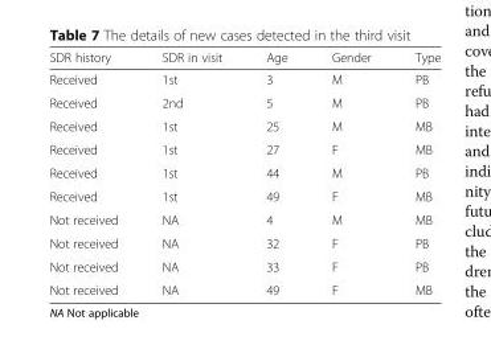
<table><thead><tr><td>SDR history</td><td>SDR in visit</td><td>Age</td><td>Gender</td><td>Type</td></tr></thead><tbody><tr><td>Received</td><td>1st</td><td>3</td><td>M</td><td>PB</td></tr><tr><td>Received</td><td>2nd</td><td>5</td><td>M</td><td>PB</td></tr><tr><td>Received</td><td>1st</td><td>25</td><td>M</td><td>MB</td></tr><tr><td>Received</td><td>1st</td><td>27</td><td>F</td><td>MB</td></tr><tr><td>Received</td><td>1st</td><td>44</td><td>M</td><td>PB</td></tr><tr><td>Received</td><td>1st</td><td>49</td><td>F</td><td>MB</td></tr><tr><td>Not received</td><td>NA</td><td>4</td><td>M</td><td>MB</td></tr><tr><td>Not received</td><td>NA</td><td>32</td><td>F</td><td>PB</td></tr><tr><td>Not received</td><td>NA</td><td>33</td><td>F</td><td>PB</td></tr><tr><td>Not received</td><td>NA</td><td>49</td><td>F</td><td>MB</td></tr></tbody></table>